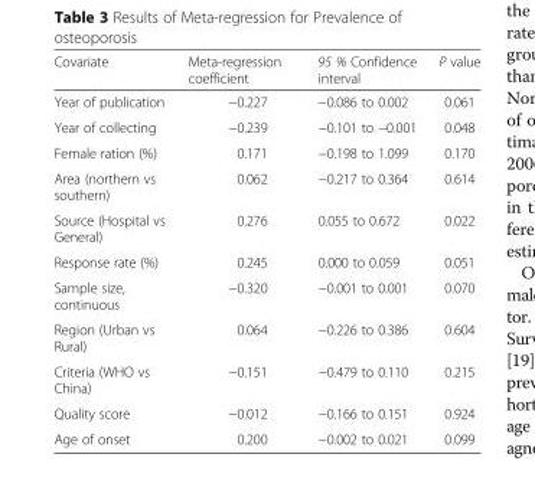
<table><thead><tr><td>Covariate</td><td>Meta-regression coefficient</td><td>95 % Confidence interval</td><td>P value</td></tr></thead><tbody><tr><td>Year of publication</td><td>−0.227</td><td>−0.086 to 0.002</td><td>0.061</td></tr><tr><td>Year of collecting</td><td>−0.239</td><td>−0.101 to −0.001</td><td>0.048</td></tr><tr><td>Female ration (%)</td><td>0.171</td><td>−0.198 to 1.099</td><td>0.170</td></tr><tr><td>Area (northern vs southern)</td><td>0.062</td><td>−0.217 to 0.364</td><td>0.614</td></tr><tr><td>Source (Hospital vs General)</td><td>0.276</td><td>0.055 to 0.672</td><td>0.022</td></tr><tr><td>Response rate (%)</td><td>0.245</td><td>0.000 to 0.059</td><td>0.051</td></tr><tr><td>Sample size, continuous</td><td>−0.320</td><td>−0.001 to 0.001</td><td>0.070</td></tr><tr><td>Region (Urban vs Rural)</td><td>0.064</td><td>−0.226 to 0.386</td><td>0.604</td></tr><tr><td>Criteria (WHO vs China)</td><td>−0.151</td><td>−0.479 to 0.110</td><td>0.215</td></tr><tr><td>Quality score</td><td>−0.012</td><td>−0.166 to 0.151</td><td>0.924</td></tr><tr><td>Age of onset</td><td>0.200</td><td>−0.002 to 0.021</td><td>0.099</td></tr></tbody></table>